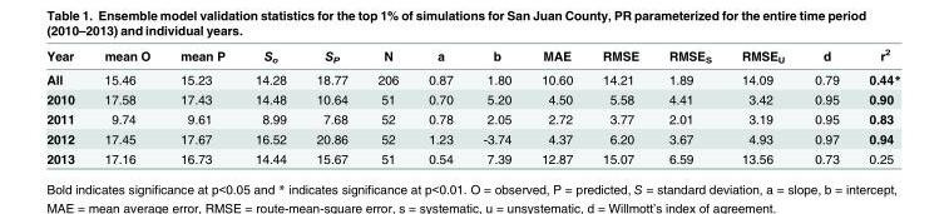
<table><thead><tr><td>Year</td><td>mean O</td><td>mean P</td><td>S<sub>o</sub></td><td>S<sub>P</sub></td><td>N</td><td>a</td><td>b</td><td>MAE</td><td>RMSE</td><td>RMSE<sub>S</sub></td><td>RMSE<sub>U</sub></td><td>d</td><td>r<sup>2</sup></td></tr></thead><tbody><tr><td>All</td><td>15.46</td><td>15.23</td><td>14.28</td><td>18.77</td><td>206</td><td>0.87</td><td>1.80</td><td>10.60</td><td>14.21</td><td>1.89</td><td>14.09</td><td>0.79</td><td>0.44*</td></tr><tr><td>2010</td><td>17.58</td><td>17.43</td><td>14.48</td><td>10.64</td><td>51</td><td>0.70</td><td>5.20</td><td>4.50</td><td>5.58</td><td>4.41</td><td>3.42</td><td>0.95</td><td>0.90</td></tr><tr><td>2011</td><td>9.74</td><td>9.61</td><td>8.99</td><td>7.68</td><td>52</td><td>0.78</td><td>2.05</td><td>2.72</td><td>3.77</td><td>2.01</td><td>3.19</td><td>0.95</td><td>0.83</td></tr><tr><td>2012</td><td>17.45</td><td>17.67</td><td>16.52</td><td>20.86</td><td>52</td><td>1.23</td><td>-3.74</td><td>4.37</td><td>6.20</td><td>3.67</td><td>4.93</td><td>0.97</td><td>0.94</td></tr><tr><td>2013</td><td>17.16</td><td>16.73</td><td>14.44</td><td>15.67</td><td>51</td><td>0.54</td><td>7.39</td><td>12.87</td><td>15.07</td><td>6.59</td><td>13.56</td><td>0.73</td><td>0.25</td></tr></tbody></table>